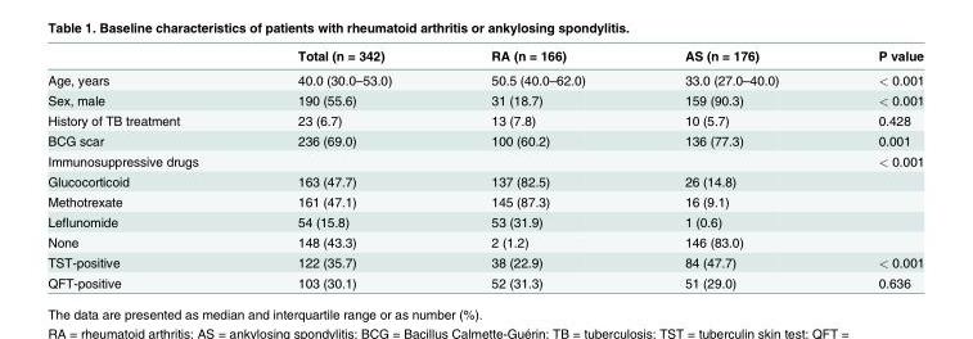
<table><thead><tr><td></td><td>Total (n = 342)</td><td>RA (n = 166)</td><td>AS (n = 176)</td><td>P value</td></tr></thead><tbody><tr><td>Age, years</td><td>40.0 (30.0–53.0)</td><td>50.5 (40.0–62.0)</td><td>33.0 (27.0–40.0)</td><td>&lt; 0.001</td></tr><tr><td>Sex, male</td><td>190 (55.6)</td><td>31 (18.7)</td><td>159 (90.3)</td><td>&lt; 0.001</td></tr><tr><td>History of TB treatment</td><td>23 (6.7)</td><td>13 (7.8)</td><td>10 (5.7)</td><td>0.428</td></tr><tr><td>BCG scar</td><td>236 (69.0)</td><td>100 (60.2)</td><td>136 (77.3)</td><td>0.001</td></tr><tr><td colspan="4">Immunosuppressive drugs</td><td rowspan="5">&lt; 0.001</td></tr><tr><td>Glucocorticoid</td><td>163 (47.7)</td><td>137 (82.5)</td><td>26 (14.8)</td></tr><tr><td>Methotrexate</td><td>161 (47.1)</td><td>145 (87.3)</td><td>16 (9.1)</td></tr><tr><td>Leflunomide</td><td>54 (15.8)</td><td>53 (31.9)</td><td>1 (0.6)</td></tr><tr><td>None</td><td>148 (43.3)</td><td>2 (1.2)</td><td>146 (83.0)</td></tr><tr><td>TST-positive</td><td>122 (35.7)</td><td>38 (22.9)</td><td>84 (47.7)</td><td>&lt; 0.001</td></tr><tr><td>QFT-positive</td><td>103 (30.1)</td><td>52 (31.3)</td><td>51 (29.0)</td><td>0.636</td></tr></tbody></table>